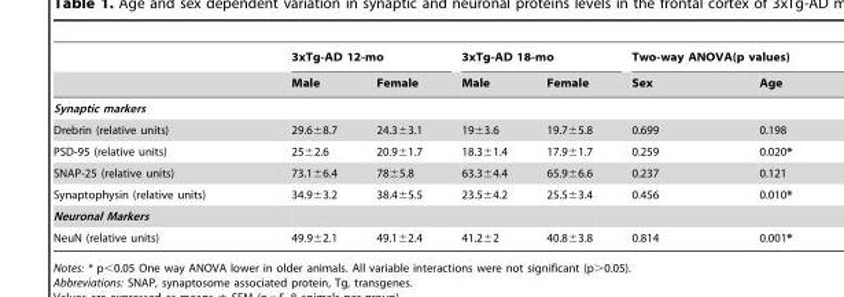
<table><thead><tr><td rowspan="2"></td><td colspan="2">3xTg-AD 12-mo</td><td colspan="2">3xTg-AD 18-mo</td><td colspan="2">Two-way ANOVA(p values)</td></tr><tr><td>Male</td><td>Female</td><td>Male</td><td>Female</td><td>Sex</td><td>Age</td></tr></thead><tbody><tr><td colspan="7">Synaptic markers</td></tr><tr><td>Drebrin (relative units)</td><td>29.6±8.7</td><td>24.3±3.1</td><td>19±3.6</td><td>19.7±5.8</td><td>0.699</td><td>0.198</td></tr><tr><td>PSD-95 (relative units)</td><td>25±2.6</td><td>20.9±1.7</td><td>18.3±1.4</td><td>17.9±1.7</td><td>0.259</td><td>0.020*</td></tr><tr><td>SNAP-25 (relative units)</td><td>73.1±6.4</td><td>78±5.8</td><td>63.3±4.4</td><td>65.9±6.6</td><td>0.237</td><td>0.121</td></tr><tr><td>Synaptophysin (relative units)</td><td>34.9±3.2</td><td>38.4±5.5</td><td>23.5±4.2</td><td>25.5±3.4</td><td>0.456</td><td>0.010*</td></tr><tr><td colspan="7">Neuronal Markers</td></tr><tr><td>NeuN (relative units)</td><td>49.9±2.1</td><td>49.1±2.4</td><td>41.2±2</td><td>40.8±3.8</td><td>0.814</td><td>0.001*</td></tr></tbody></table>